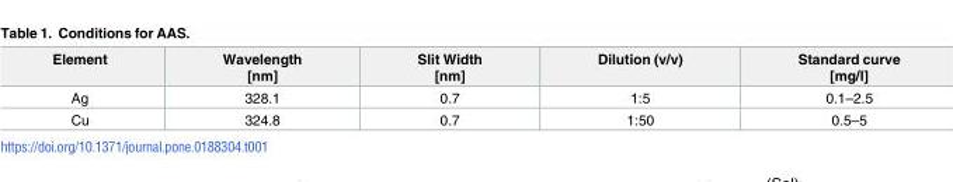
<table><thead><tr><td>Element</td><td>Wavelength [nm]</td><td>Slit Width [nm]</td><td>Dilution (v/v)</td><td>Standard curve [mg/l]</td></tr></thead><tbody><tr><td>Ag</td><td>328.1</td><td>0.7</td><td>1:5</td><td>0.1–2.5</td></tr><tr><td>Cu</td><td>324.8</td><td>0.7</td><td>1:50</td><td>0.5–5</td></tr></tbody></table>